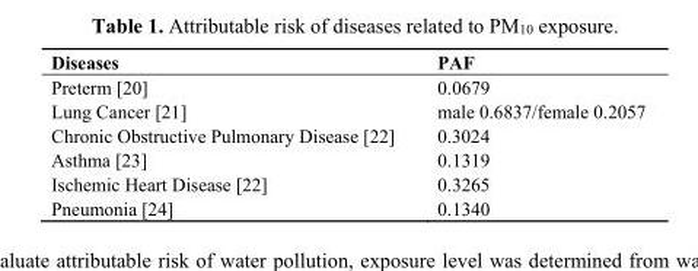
<table><thead><tr><td>Diseases</td><td>PAF</td></tr></thead><tbody><tr><td>Preterm [20]</td><td>0.0679</td></tr><tr><td>Lung Cancer [21]</td><td>male 0.6837/female 0.2057</td></tr><tr><td>Chronic Obstructive Pulmonary Disease [22]</td><td>0.3024</td></tr><tr><td>Asthma [23]</td><td>0.1319</td></tr><tr><td>Ischemic Heart Disease [22]</td><td>0.3265</td></tr><tr><td>Pneumonia [24]</td><td>0.1340</td></tr></tbody></table>